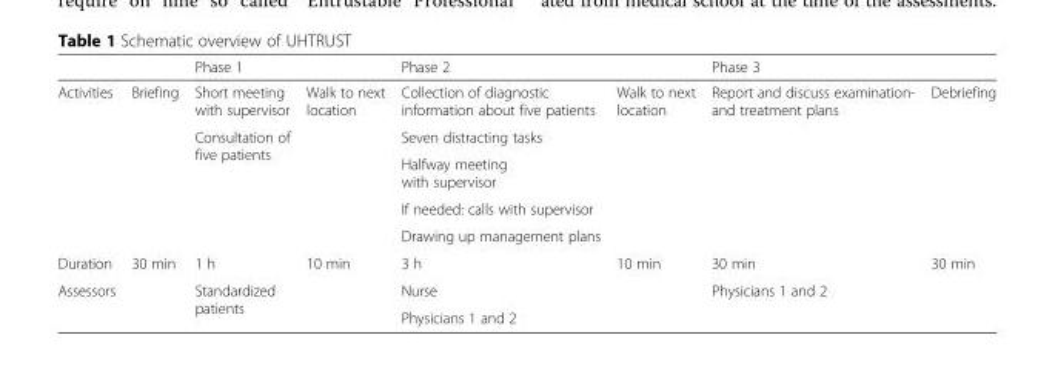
<table><thead><tr><td></td><td></td><td>Phase 1</td><td></td><td>Phase 2</td><td></td><td>Phase 3</td><td></td></tr></thead><tbody><tr><td rowspan="5">Activities</td><td rowspan="5">Briefing</td><td>Short meeting with supervisor</td><td>Walk to next location</td><td>Collection of diagnostic information about five patients</td><td rowspan="5">Walk to next location</td><td rowspan="5">Report and discuss examination- and treatment plans</td><td rowspan="5">Debriefing</td></tr><tr><td rowspan="4">Consultation of five patients</td><td rowspan="4"></td><td>Seven distracting tasks</td></tr><tr><td>Halfway meeting with supervisor</td></tr><tr><td>If needed: calls with supervisor</td></tr><tr><td>Drawing up management plans</td></tr><tr><td>Duration</td><td>30 min</td><td>1 h</td><td>10 min</td><td>3 h</td><td>10 min</td><td>30 min</td><td>30 min</td></tr><tr><td rowspan="2">Assessors</td><td rowspan="2"></td><td rowspan="2">Standardized patients</td><td rowspan="2"></td><td>Nurse</td><td rowspan="2"></td><td rowspan="2">Physicians 1 and 2</td><td rowspan="2"></td></tr><tr><td>Physicians 1 and 2</td></tr></tbody></table>